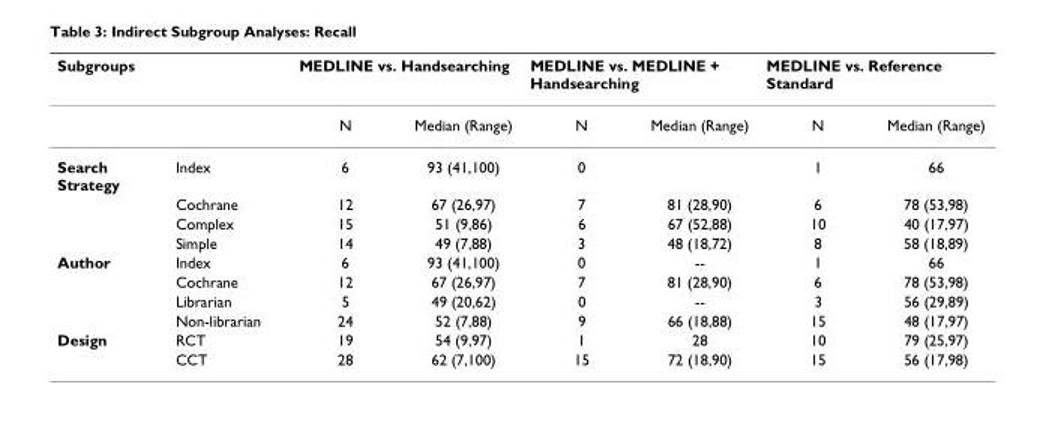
<table><thead><tr><td rowspan="2">Subgroups</td><td rowspan="2"></td><td colspan="2">MEDLINE vs. Handsearching</td><td colspan="2">MEDLINE vs. MEDLINE + Handsearching</td><td colspan="2">MEDLINE vs. Reference Standard</td></tr><tr><td>N</td><td>Median (Range)</td><td>N</td><td>Median (Range)</td><td>N</td><td>Median (Range)</td></tr></thead><tbody><tr><td rowspan="4">Search Strategy</td><td>Index</td><td>6</td><td>93 (41,100)</td><td>0</td><td></td><td>1</td><td>66</td></tr><tr><td>Cochrane</td><td>12</td><td>67 (26,97)</td><td>7</td><td>81 (28,90)</td><td>6</td><td>78 (53,98)</td></tr><tr><td>Complex</td><td>15</td><td>51 (9,86)</td><td>6</td><td>67 (52,88)</td><td>10</td><td>40 (17,97)</td></tr><tr><td>Simple</td><td>14</td><td>49 (7,88)</td><td>3</td><td>48 (18,72)</td><td>8</td><td>58 (18,89)</td></tr><tr><td rowspan="4">Author</td><td>Index</td><td>6</td><td>93 (41,100)</td><td>0</td><td>--</td><td>1</td><td>66</td></tr><tr><td>Cochrane</td><td>12</td><td>67 (26,97)</td><td>7</td><td>81 (28,90)</td><td>6</td><td>78 (53,98)</td></tr><tr><td>Librarian</td><td>5</td><td>49 (20,62)</td><td>0</td><td>--</td><td>3</td><td>56 (29,89)</td></tr><tr><td>Non-librarian</td><td>24</td><td>52 (7,88)</td><td>9</td><td>66 (18,88)</td><td>15</td><td>48 (17,97)</td></tr><tr><td rowspan="2">Design</td><td>RCT</td><td>19</td><td>54 (9,97)</td><td>1</td><td>28</td><td>10</td><td>79 (25,97)</td></tr><tr><td>CCT</td><td>28</td><td>62 (7,100)</td><td>15</td><td>72 (18,90)</td><td>15</td><td>56 (17,98)</td></tr></tbody></table>